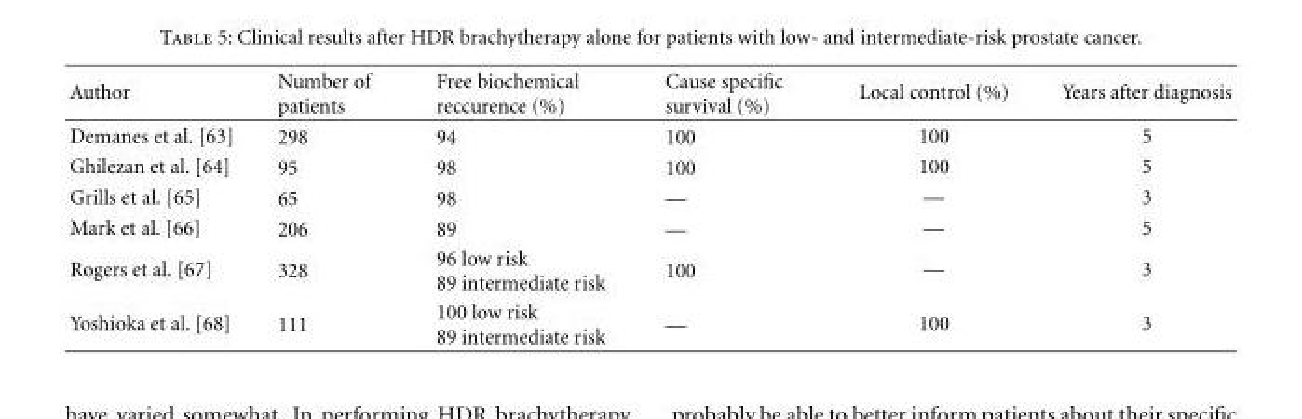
<table><thead><tr><td>Author</td><td>Number of patients</td><td>Free biochemical reccurence (%)</td><td>Cause specific survival (%)</td><td>Local control (%)</td><td>Years after diagnosis</td></tr></thead><tbody><tr><td>Demanes et al. [63]</td><td>298</td><td>94</td><td>100</td><td>100</td><td>5</td></tr><tr><td>Ghilezan et al. [64]</td><td>95</td><td>98</td><td>100</td><td>100</td><td>5</td></tr><tr><td>Grills et al. [65]</td><td>65</td><td>98</td><td>—</td><td>—</td><td>3</td></tr><tr><td>Mark et al. [66]</td><td>206</td><td>89</td><td>—</td><td>—</td><td>5</td></tr><tr><td>Rogers et al. [67]</td><td>328</td><td>96 low risk 89 intermediate risk</td><td>100</td><td>—</td><td>3</td></tr><tr><td>Yoshioka et al. [68]</td><td>111</td><td>100 low risk 89 intermediate risk</td><td>—</td><td>100</td><td>3</td></tr></tbody></table>